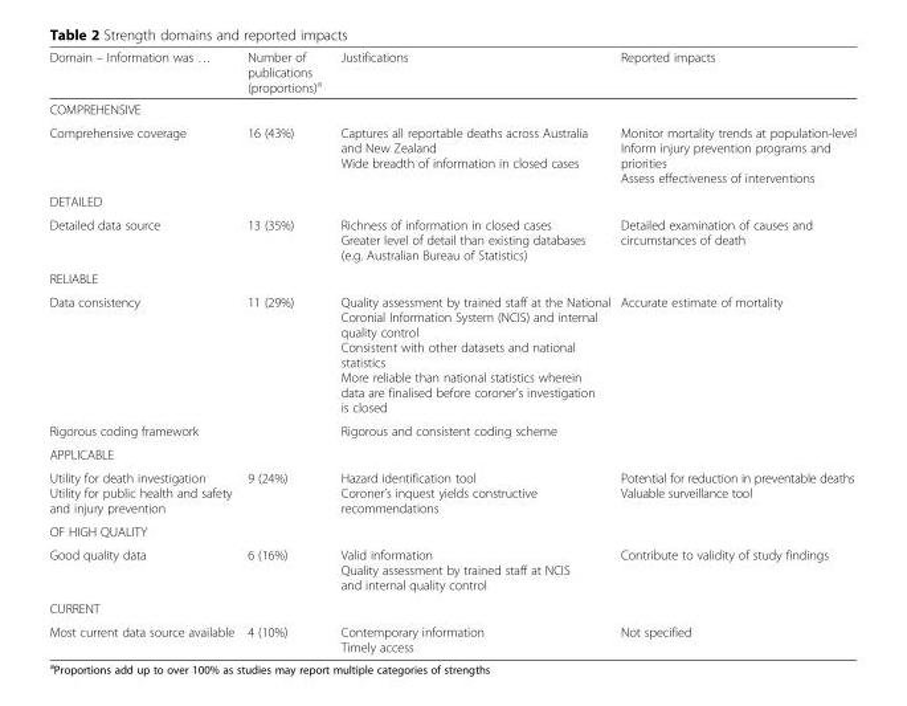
<table><thead><tr><td>Domain – Information was …</td><td>Number of publications (proportions)<sup>a</sup></td><td>Justifications</td><td>Reported impacts</td></tr></thead><tbody><tr><td colspan="4">COMPREHENSIVE</td></tr><tr><td>Comprehensive coverage</td><td>16 (43%)</td><td>Captures all reportable deaths across Australia and New Zealand Wide breadth of information in closed cases</td><td>Monitor mortality trends at population-level Inform injury prevention programs and priorities Assess effectiveness of interventions</td></tr><tr><td colspan="4">DETAILED</td></tr><tr><td>Detailed data source</td><td>13 (35%)</td><td>Richness of information in closed cases Greater level of detail than existing databases (e.g. Australian Bureau of Statistics)</td><td>Detailed examination of causes and circumstances of death</td></tr><tr><td colspan="4">RELIABLE</td></tr><tr><td>Data consistency</td><td rowspan="2">11 (29%)</td><td>Quality assessment by trained staff at the National Coronial Information System (NCIS) and internal quality control Consistent with other datasets and national statistics More reliable than national statistics wherein data are finalised before coroner’s investigation is closed</td><td rowspan="2">Accurate estimate of mortality</td></tr><tr><td>Rigorous coding framework</td><td>Rigorous and consistent coding scheme</td></tr><tr><td colspan="4">APPLICABLE</td></tr><tr><td>Utility for death investigation Utility for public health and safety and injury prevention</td><td>9 (24%)</td><td>Hazard identification tool Coroner’s inquest yields constructive recommendations</td><td>Potential for reduction in preventable deaths Valuable surveillance tool</td></tr><tr><td colspan="4">OF HIGH QUALITY</td></tr><tr><td>Good quality data</td><td>6 (16%)</td><td>Valid information Quality assessment by trained staff at NCIS and internal quality control</td><td>Contribute to validity of study findings</td></tr><tr><td colspan="4">CURRENT</td></tr><tr><td>Most current data source available</td><td>4 (10%)</td><td>Contemporary information Timely access</td><td>Not specified</td></tr></tbody></table>